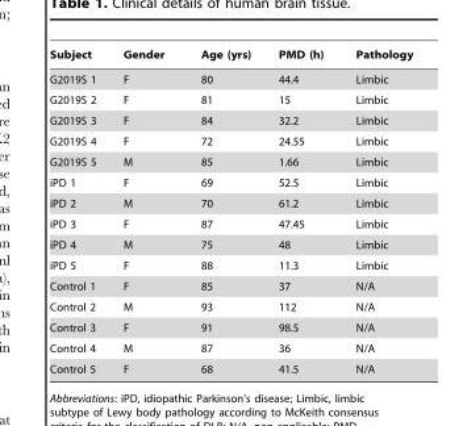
<table><thead><tr><td>Subject</td><td>Gender</td><td>Age (yrs)</td><td>PMD (h)</td><td>Pathology</td></tr></thead><tbody><tr><td>G2019S 1</td><td>F</td><td>80</td><td>44.4</td><td>Limbic</td></tr><tr><td>G2019S 2</td><td>F</td><td>81</td><td>15</td><td>Limbic</td></tr><tr><td>G2019S 3</td><td>F</td><td>84</td><td>32.2</td><td>Limbic</td></tr><tr><td>G2019S 4</td><td>F</td><td>72</td><td>24.55</td><td>Limbic</td></tr><tr><td>G2019S 5</td><td>M</td><td>85</td><td>1.66</td><td>Limbic</td></tr><tr><td>iPD 1</td><td>F</td><td>69</td><td>52.5</td><td>Limbic</td></tr><tr><td>iPD 2</td><td>M</td><td>70</td><td>61.2</td><td>Limbic</td></tr><tr><td>iPD 3</td><td>F</td><td>87</td><td>47.45</td><td>Limbic</td></tr><tr><td>iPD 4</td><td>M</td><td>75</td><td>48</td><td>Limbic</td></tr><tr><td>iPD 5</td><td>F</td><td>88</td><td>11.3</td><td>Limbic</td></tr><tr><td>Control 1</td><td>F</td><td>85</td><td>37</td><td>N/A</td></tr><tr><td>Control 2</td><td>M</td><td>93</td><td>112</td><td>N/A</td></tr><tr><td>Control 3</td><td>F</td><td>91</td><td>98.5</td><td>N/A</td></tr><tr><td>Control 4</td><td>M</td><td>87</td><td>36</td><td>N/A</td></tr><tr><td>Control 5</td><td>F</td><td>68</td><td>41.5</td><td>N/A</td></tr></tbody></table>